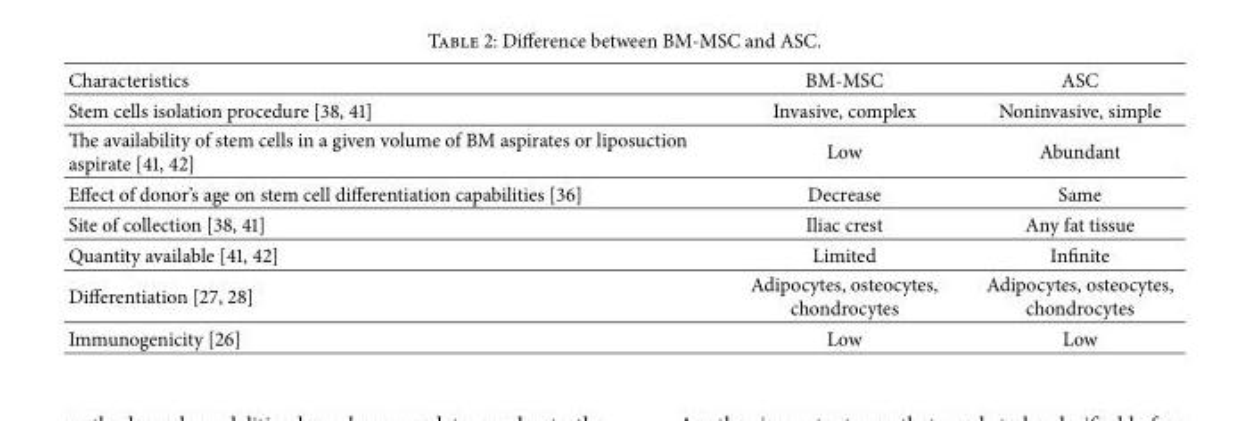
<table><thead><tr><td>Characteristics</td><td>BM-MSC</td><td>ASC</td></tr></thead><tbody><tr><td>Stem cells isolation procedure [38, 41]</td><td>Invasive, complex</td><td>Noninvasive, simple</td></tr><tr><td>The availability of stem cells in a given volume of BM aspirates or liposuction aspirate [41, 42]</td><td>Low</td><td>Abundant</td></tr><tr><td>Effect of donor’s age on stem cell differentiation capabilities [36]</td><td>Decrease</td><td>Same</td></tr><tr><td>Site of collection [38, 41]</td><td>Iliac crest</td><td>Any fat tissue</td></tr><tr><td>Quantity available [41, 42]</td><td>Limited</td><td>Infinite</td></tr><tr><td>Differentiation [27, 28]</td><td>Adipocytes, osteocytes, chondrocytes</td><td>Adipocytes, osteocytes, chondrocytes</td></tr><tr><td>Immunogenicity [26]</td><td>Low</td><td>Low</td></tr></tbody></table>